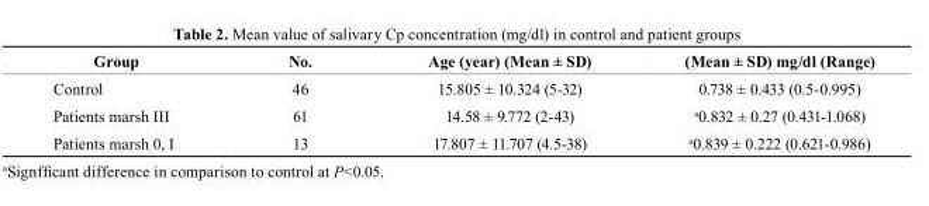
<table><thead><tr><td>Group</td><td>No.</td><td>Age (year) (Mean ± sD)</td><td>(Mean ± sD) mg/dl (range)</td></tr></thead><tbody><tr><td>Control</td><td>46</td><td>15.805 ± 10.324 (5-32)</td><td>0.738 ± 0.433 (0.5-0.995)</td></tr><tr><td>Patients marsh III</td><td>61</td><td>14.58 ± 9.772 (2-43)</td><td>a0.832 ± 0.27 (0.431-1.068)</td></tr><tr><td>Patients marsh 0, I</td><td>13</td><td>17.807 ± 11.707 (4.5-38)</td><td>a0.839 ± 0.222 (0.621-0.986)</td></tr></tbody></table>